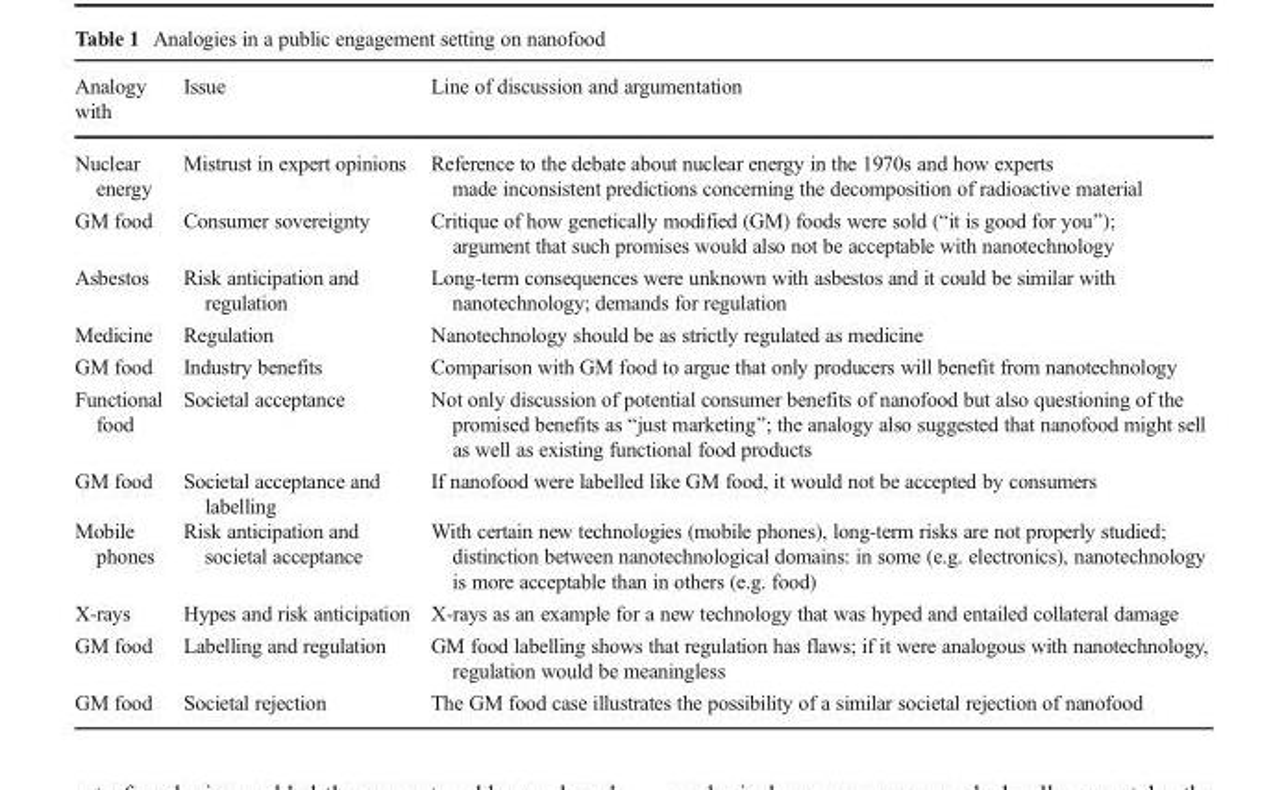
<table><thead><tr><td>Analogy with</td><td>Issue</td><td>Line of discussion and argumentation</td></tr></thead><tbody><tr><td>Nuclear energy</td><td>Mistrust in expert opinions</td><td>Reference to the debate about nuclear energy in the 1970s and how experts made inconsistent predictions concerning the decomposition of radioactive material</td></tr><tr><td>GM food</td><td>Consumer sovereignty</td><td>Critique of how genetically modified (GM) foods were sold (“it is good for you”); argument that such promises would also not be acceptable with nanotechnology</td></tr><tr><td>Asbestos</td><td>Risk anticipation and regulation</td><td>Long-term consequences were unknown with asbestos and it could be similar with nanotechnology; demands for regulation</td></tr><tr><td>Medicine</td><td>Regulation</td><td>Nanotechnology should be as strictly regulated as medicine</td></tr><tr><td>GM food</td><td>Industry benefits</td><td>Comparison with GM food to argue that only producers will benefit from nanotechnology</td></tr><tr><td>Functional food</td><td>Societal acceptance</td><td>Not only discussion of potential consumer benefits of nanofood but also questioning of the promised benefits as “just marketing”; the analogy also suggested that nanofood might sell as well as existing functional food products</td></tr><tr><td>GM food</td><td>Societal acceptance and labelling</td><td>If nanofood were labelled like GM food, it would not be accepted by consumers</td></tr><tr><td>Mobile phones</td><td>Risk anticipation and societal acceptance</td><td>With certain new technologies (mobile phones), long-term risks are not properly studied; distinction between nanotechnological domains: in some (e.g. electronics), nanotechnology is more acceptable than in others (e.g. food)</td></tr><tr><td>X-rays</td><td>Hypes and risk anticipation</td><td>X-rays as an example for a new technology that was hyped and entailed collateral damage</td></tr><tr><td>GM food</td><td>Labelling and regulation</td><td>GM food labelling shows that regulation has flaws; if it were analogous with nanotechnology, regulation would be meaningless</td></tr><tr><td>GM food</td><td>Societal rejection</td><td>The GM food case illustrates the possibility of a similar societal rejection of nanofood</td></tr></tbody></table>